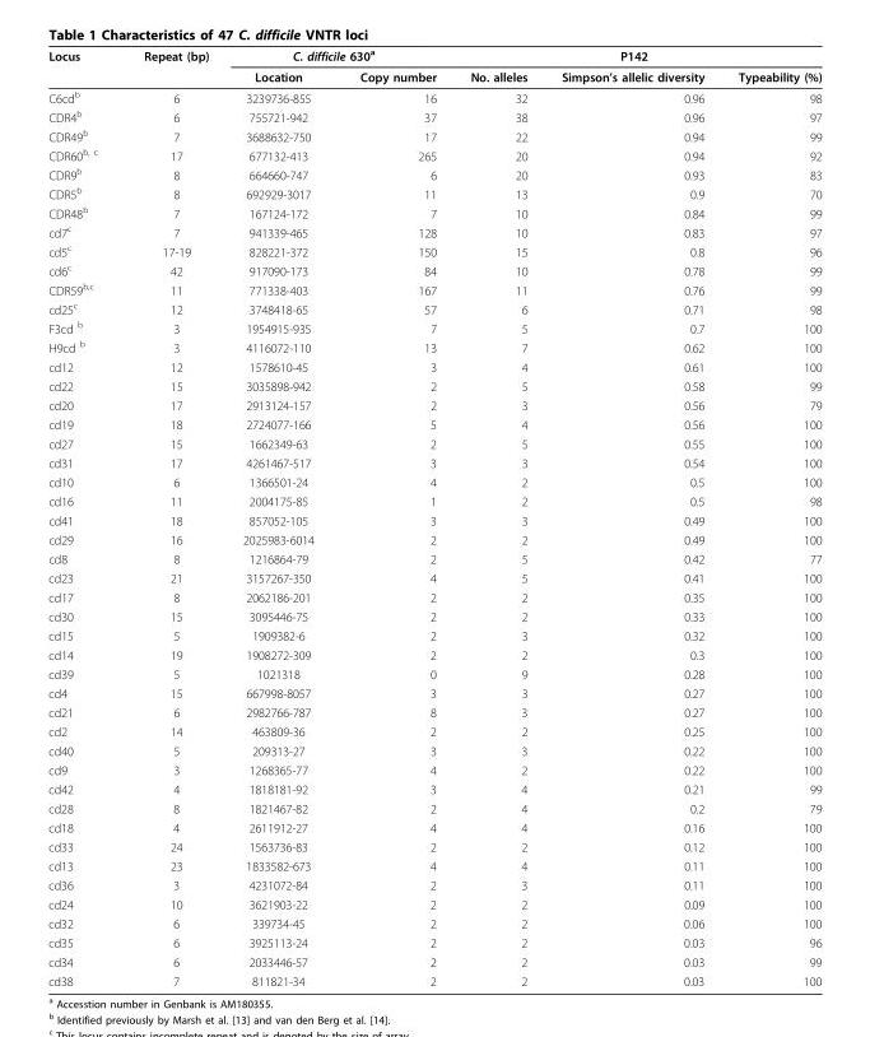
<table><thead><tr><td rowspan="2">Locus</td><td rowspan="2">Repeat (bp)</td><td colspan="2">C. difficile 630<sup>a</sup></td><td colspan="3">P142</td></tr><tr><td>Location</td><td>Copy number</td><td>No. alleles</td><td>Simpson’s allelic diversity</td><td>Typeability (%)</td></tr></thead><tbody><tr><td>C6cd<sup>b</sup></td><td>6</td><td>3239736-855</td><td>16</td><td>32</td><td>0.96</td><td>98</td></tr><tr><td>CDR4<sup>b</sup></td><td>6</td><td>755721-942</td><td>37</td><td>38</td><td>0.96</td><td>97</td></tr><tr><td>CDR49<sup>b</sup></td><td>7</td><td>3688632-750</td><td>17</td><td>22</td><td>0.94</td><td>99</td></tr><tr><td>CDR60<sup>b, c</sup></td><td>17</td><td>677132-413</td><td>265</td><td>20</td><td>0.94</td><td>92</td></tr><tr><td>CDR9<sup>b</sup></td><td>8</td><td>664660-747</td><td>6</td><td>20</td><td>0.93</td><td>83</td></tr><tr><td>CDR5<sup>b</sup></td><td>8</td><td>692929-3017</td><td>11</td><td>13</td><td>0.9</td><td>70</td></tr><tr><td>CDR48<sup>b</sup></td><td>7</td><td>167124-172</td><td>7</td><td>10</td><td>0.84</td><td>99</td></tr><tr><td>cd7<sup>c</sup></td><td>7</td><td>941339-465</td><td>128</td><td>10</td><td>0.83</td><td>97</td></tr><tr><td>cd5<sup>c</sup></td><td>17-19</td><td>828221-372</td><td>150</td><td>15</td><td>0.8</td><td>96</td></tr><tr><td>cd6<sup>c</sup></td><td>42</td><td>917090-173</td><td>84</td><td>10</td><td>0.78</td><td>99</td></tr><tr><td>CDR59<sup>b,c</sup></td><td>11</td><td>771338-403</td><td>167</td><td>11</td><td>0.76</td><td>99</td></tr><tr><td>cd25<sup>c</sup></td><td>12</td><td>3748418-65</td><td>57</td><td>6</td><td>0.71</td><td>98</td></tr><tr><td>F3cd <sup>b</sup></td><td>3</td><td>1954915-935</td><td>7</td><td>5</td><td>0.7</td><td>100</td></tr><tr><td>H9cd <sup>b</sup></td><td>3</td><td>4116072-110</td><td>13</td><td>7</td><td>0.62</td><td>100</td></tr><tr><td>cd12</td><td>12</td><td>1578610-45</td><td>3</td><td>4</td><td>0.61</td><td>100</td></tr><tr><td>cd22</td><td>15</td><td>3035898-942</td><td>2</td><td>5</td><td>0.58</td><td>99</td></tr><tr><td>cd20</td><td>17</td><td>2913124-157</td><td>2</td><td>3</td><td>0.56</td><td>79</td></tr><tr><td>cd19</td><td>18</td><td>2724077-166</td><td>5</td><td>4</td><td>0.56</td><td>100</td></tr><tr><td>cd27</td><td>15</td><td>1662349-63</td><td>2</td><td>5</td><td>0.55</td><td>100</td></tr><tr><td>cd31</td><td>17</td><td>4261467-517</td><td>3</td><td>3</td><td>0.54</td><td>100</td></tr><tr><td>cd10</td><td>6</td><td>1366501-24</td><td>4</td><td>2</td><td>0.5</td><td>100</td></tr><tr><td>cd16</td><td>11</td><td>2004175-85</td><td>1</td><td>2</td><td>0.5</td><td>98</td></tr><tr><td>cd41</td><td>18</td><td>857052-105</td><td>3</td><td>3</td><td>0.49</td><td>100</td></tr><tr><td>cd29</td><td>16</td><td>2025983-6014</td><td>2</td><td>2</td><td>0.49</td><td>100</td></tr><tr><td>cd8</td><td>8</td><td>1216864-79</td><td>2</td><td>5</td><td>0.42</td><td>77</td></tr><tr><td>cd23</td><td>21</td><td>3157267-350</td><td>4</td><td>5</td><td>0.41</td><td>100</td></tr><tr><td>cd17</td><td>8</td><td>2062186-201</td><td>2</td><td>2</td><td>0.35</td><td>100</td></tr><tr><td>cd30</td><td>15</td><td>3095446-75</td><td>2</td><td>2</td><td>0.33</td><td>100</td></tr><tr><td>cd15</td><td>5</td><td>1909382-6</td><td>2</td><td>3</td><td>0.32</td><td>100</td></tr><tr><td>cd14</td><td>19</td><td>1908272-309</td><td>2</td><td>2</td><td>0.3</td><td>100</td></tr><tr><td>cd39</td><td>5</td><td>1021318</td><td>0</td><td>9</td><td>0.28</td><td>100</td></tr><tr><td>cd4</td><td>15</td><td>667998-8057</td><td>3</td><td>3</td><td>0.27</td><td>100</td></tr><tr><td>cd21</td><td>6</td><td>2982766-787</td><td>8</td><td>3</td><td>0.27</td><td>100</td></tr><tr><td>cd2</td><td>14</td><td>463809-36</td><td>2</td><td>2</td><td>0.25</td><td>100</td></tr><tr><td>cd40</td><td>5</td><td>209313-27</td><td>3</td><td>3</td><td>0.22</td><td>100</td></tr><tr><td>cd9</td><td>3</td><td>1268365-77</td><td>4</td><td>2</td><td>0.22</td><td>100</td></tr><tr><td>cd42</td><td>4</td><td>1818181-92</td><td>3</td><td>4</td><td>0.21</td><td>99</td></tr><tr><td>cd28</td><td>8</td><td>1821467-82</td><td>2</td><td>4</td><td>0.2</td><td>79</td></tr><tr><td>cd18</td><td>4</td><td>2611912-27</td><td>4</td><td>4</td><td>0.16</td><td>100</td></tr><tr><td>cd33</td><td>24</td><td>1563736-83</td><td>2</td><td>2</td><td>0.12</td><td>100</td></tr><tr><td>cd13</td><td>23</td><td>1833582-673</td><td>4</td><td>4</td><td>0.11</td><td>100</td></tr><tr><td>cd36</td><td>3</td><td>4231072-84</td><td>2</td><td>3</td><td>0.11</td><td>100</td></tr><tr><td>cd24</td><td>10</td><td>3621903-22</td><td>2</td><td>2</td><td>0.09</td><td>100</td></tr><tr><td>cd32</td><td>6</td><td>339734-45</td><td>2</td><td>2</td><td>0.06</td><td>100</td></tr><tr><td>cd35</td><td>6</td><td>3925113-24</td><td>2</td><td>2</td><td>0.03</td><td>96</td></tr><tr><td>cd34</td><td>6</td><td>2033446-57</td><td>2</td><td>2</td><td>0.03</td><td>99</td></tr><tr><td>cd38</td><td>7</td><td>811821-34</td><td>2</td><td>2</td><td>0.03</td><td>100</td></tr></tbody></table>